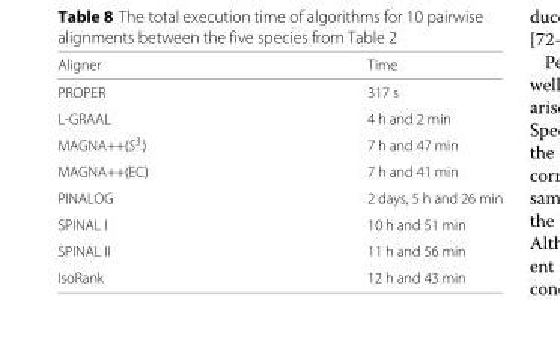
<table><thead><tr><td>Aligner</td><td>Time</td></tr></thead><tbody><tr><td>PROPER</td><td>317 s</td></tr><tr><td>L-GRAAL</td><td>4 h and 2 min</td></tr><tr><td>MAGNA++(S<sup>3</sup>)</td><td>7 h and 47 min</td></tr><tr><td>MAGNA++(EC)</td><td>7 h and 41 min</td></tr><tr><td>PINALOG</td><td>2 days, 5 h and 26 min</td></tr><tr><td>SPINAL I</td><td>10 h and 51 min</td></tr><tr><td>SPINAL II</td><td>11 h and 56 min</td></tr><tr><td>IsoRank</td><td>12 h and 43 min</td></tr></tbody></table>